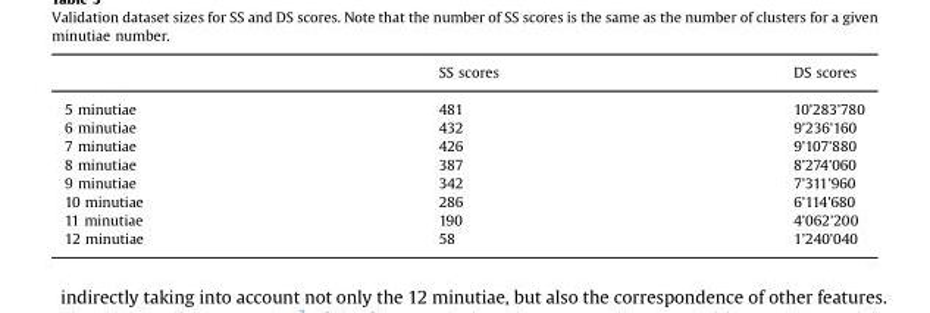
<table><thead><tr><td></td><td>SS scores</td><td>DS scores</td></tr></thead><tbody><tr><td>5 minutiae</td><td>481</td><td>10’283’780</td></tr><tr><td>6 minutiae</td><td>432</td><td>9’236’160</td></tr><tr><td>7 minutiae</td><td>426</td><td>9’107’880</td></tr><tr><td>8 minutiae</td><td>387</td><td>8’274’060</td></tr><tr><td>9 minutiae</td><td>342</td><td>7’311’960</td></tr><tr><td>10 minutiae</td><td>286</td><td>6’114’680</td></tr><tr><td>11 minutiae</td><td>190</td><td>4’062’200</td></tr><tr><td>12 minutiae</td><td>58</td><td>1’240’040</td></tr></tbody></table>